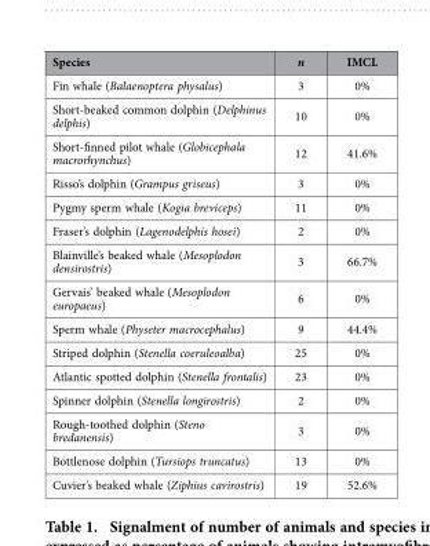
<table><thead><tr><td>Species</td><td>n</td><td>IMCL</td></tr></thead><tbody><tr><td>Fin whale (Balaenoptera physalus)</td><td>3</td><td>0%</td></tr><tr><td>Short-beaked common dolphin (Delphinus delphis)</td><td>10</td><td>0%</td></tr><tr><td>Short-finned pilot whale (Globicephala macrorhynchus)</td><td>12</td><td>41.6%</td></tr><tr><td>Risso’s dolphin (Grampus griseus)</td><td>3</td><td>0%</td></tr><tr><td>Pygmy sperm whale (Kogia breviceps)</td><td>11</td><td>0%</td></tr><tr><td>Fraser’s dolphin (Lagenodelphis hosei)</td><td>2</td><td>0%</td></tr><tr><td>Blainville’s beaked whale (Mesoplodon densirostris)</td><td>3</td><td>66.7%</td></tr><tr><td>Gervais’ beaked whale (Mesoplodon europaeus)</td><td>6</td><td>0%</td></tr><tr><td>Sperm whale (Physeter macrocephalus)</td><td>9</td><td>44.4%</td></tr><tr><td>Striped dolphin (Stenella coeruleoalba)</td><td>25</td><td>0%</td></tr><tr><td>Atlantic spotted dolphin (Stenella frontalis)</td><td>23</td><td>0%</td></tr><tr><td>Spinner dolphin (Stenella longirostris)</td><td>2</td><td>0%</td></tr><tr><td>Rough-toothed dolphin (Steno bredanensis)</td><td>3</td><td>0%</td></tr><tr><td>Bottlenose dolphin (Tursiops truncatus)</td><td>13</td><td>0%</td></tr><tr><td>Cuvier’s beaked whale (Ziphius cavirostris)</td><td>19</td><td>52.6%</td></tr></tbody></table>